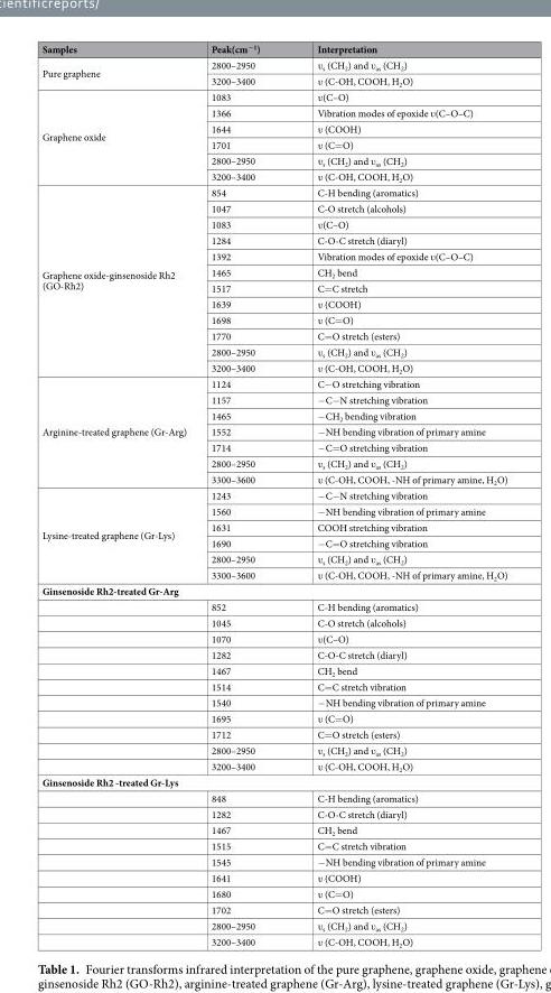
<table><thead><tr><td>Samples</td><td>Peak(cm<sup>−1</sup>)</td><td>Interpretation</td></tr></thead><tbody><tr><td rowspan="2">Pure graphene</td><td>2800–2950</td><td>ʋ<sub>s</sub> (CH<sub>2</sub>) and ʋ<sub>as</sub> (CH<sub>2</sub>)</td></tr><tr><td>3200–3400</td><td>ʋ (C-OH, COOH, H<sub>2</sub>O)</td></tr><tr><td rowspan="6">Graphene oxide</td><td>1083</td><td>ʋ(C–O)</td></tr><tr><td>1366</td><td>Vibration modes of epoxide ʋ(C–O–C)</td></tr><tr><td>1644</td><td>ʋ (COOH)</td></tr><tr><td>1701</td><td>ʋ (C=O)</td></tr><tr><td>2800–2950</td><td>ʋ<sub>s</sub> (CH<sub>2</sub>) and ʋ<sub>as</sub> (CH<sub>2</sub>)</td></tr><tr><td>3200–3400</td><td>ʋ (C-OH, COOH, H<sub>2</sub>O)</td></tr><tr><td rowspan="12">Graphene oxide-ginsenoside Rh2 (GO-Rh2)</td><td>854</td><td>C-H bending (aromatics)</td></tr><tr><td>1047</td><td>C-O stretch (alcohols)</td></tr><tr><td>1083</td><td>ʋ(C–O)</td></tr><tr><td>1284</td><td>C-O-C stretch (diaryl)</td></tr><tr><td>1392</td><td>Vibration modes of epoxide ʋ(C–O–C)</td></tr><tr><td>1465</td><td>CH<sub>2</sub> bend</td></tr><tr><td>1517</td><td>C=C stretch</td></tr><tr><td>1639</td><td>ʋ (COOH)</td></tr><tr><td>1698</td><td>ʋ (C=O)</td></tr><tr><td>1770</td><td>C=O stretch (esters)</td></tr><tr><td>2800–2950</td><td>ʋ<sub>s</sub> (CH<sub>2</sub>) and ʋ<sub>as</sub> (CH<sub>2</sub>)</td></tr><tr><td>3200–3400</td><td>ʋ (C-OH, COOH, H<sub>2</sub>O)</td></tr><tr><td rowspan="7">Arginine-treated graphene (Gr-Arg)</td><td>1124</td><td>C−O stretching vibration</td></tr><tr><td>1157</td><td>−C−N stretching vibration</td></tr><tr><td>1465</td><td>−CH<sub>2</sub> bending vibration</td></tr><tr><td>1552</td><td>−NH bending vibration of primary amine</td></tr><tr><td>1714</td><td>−C=O stretching vibration</td></tr><tr><td>2800–2950</td><td>ʋ<sub>s</sub> (CH<sub>2</sub>) and ʋ<sub>as</sub> (CH<sub>2</sub>)</td></tr><tr><td>3300–3600</td><td>ʋ (C-OH, COOH, -NH of primary amine, H<sub>2</sub>O)</td></tr><tr><td rowspan="6">Lysine-treated graphene (Gr-Lys)</td><td>1243</td><td>−C−N stretching vibration</td></tr><tr><td>1560</td><td>−NH bending vibration of primary amine</td></tr><tr><td>1631</td><td>COOH stretching vibration</td></tr><tr><td>1690</td><td>−C=O stretching vibration</td></tr><tr><td>2800–2950</td><td>ʋ<sub>s</sub> (CH<sub>2</sub>) and ʋ<sub>as</sub> (CH<sub>2</sub>)</td></tr><tr><td>3300–3600</td><td>ʋ (C-OH, COOH, -NH of primary amine, H<sub>2</sub>O)</td></tr><tr><td colspan="3">Ginsenoside Rh2-treated Gr-Arg</td></tr><tr><td></td><td>852</td><td>C-H bending (aromatics)</td></tr><tr><td></td><td>1045</td><td>C-O stretch (alcohols)</td></tr><tr><td></td><td>1070</td><td>ʋ(C–O)</td></tr><tr><td></td><td>1282</td><td>C-O-C stretch (diaryl)</td></tr><tr><td></td><td>1467</td><td>CH<sub>2</sub> bend</td></tr><tr><td></td><td>1514</td><td>C=C stretch vibration</td></tr><tr><td></td><td>1540</td><td>−NH bending vibration of primary amine</td></tr><tr><td></td><td>1695</td><td>ʋ (C=O)</td></tr><tr><td></td><td>1712</td><td>C=O stretch (esters)</td></tr><tr><td></td><td>2800–2950</td><td>ʋ<sub>s</sub> (CH<sub>2</sub>) and ʋ<sub>as</sub> (CH<sub>2</sub>)</td></tr><tr><td></td><td>3200–3400</td><td>ʋ (C-OH, COOH, H<sub>2</sub>O)</td></tr><tr><td colspan="3">Ginsenoside Rh2 -treated Gr-Lys</td></tr><tr><td></td><td>848</td><td>C-H bending (aromatics)</td></tr><tr><td></td><td>1282</td><td>C-O-C stretch (diaryl)</td></tr><tr><td></td><td>1467</td><td>CH<sub>2</sub> bend</td></tr><tr><td></td><td>1515</td><td>C=C stretch vibration</td></tr><tr><td></td><td>1545</td><td>−NH bending vibration of primary amine</td></tr><tr><td></td><td>1641</td><td>ʋ (COOH)</td></tr><tr><td></td><td>1680</td><td>ʋ (C=O)</td></tr><tr><td></td><td>1702</td><td>C=O stretch (esters)</td></tr><tr><td></td><td>2800–2950</td><td>ʋ<sub>s</sub> (CH<sub>2</sub>) and ʋ<sub>as</sub> (CH<sub>2</sub>)</td></tr><tr><td></td><td>3200–3400</td><td>ʋ (C-OH, COOH, H<sub>2</sub>O)</td></tr></tbody></table>